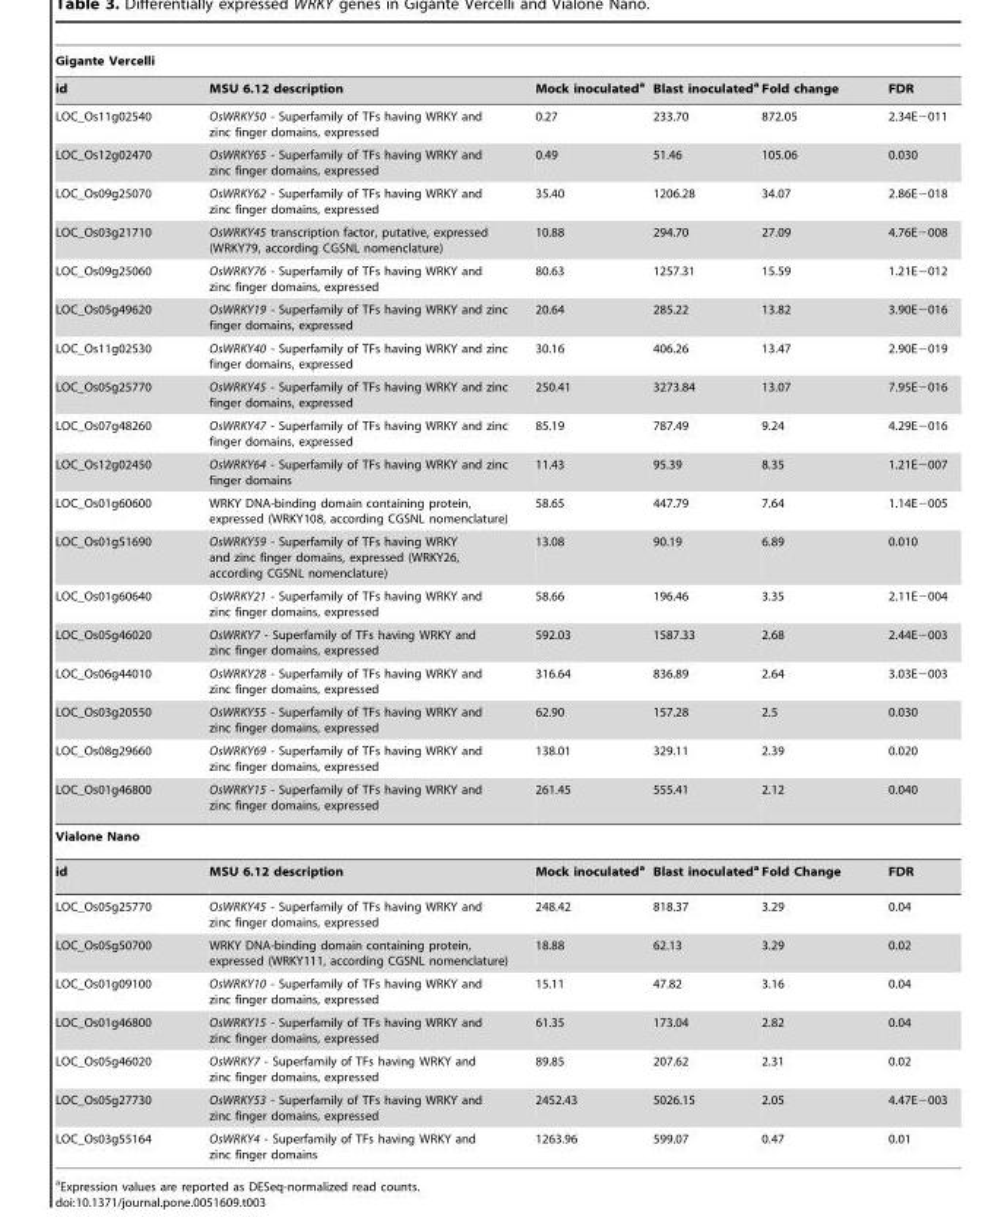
<table><thead><tr><td colspan="6">Gigante Vercelli</td></tr><tr><td>id</td><td>MSU 6.12 description</td><td>Mock inoculated<sup>a</sup></td><td>Blast inoculated<sup>a</sup></td><td>Fold change</td><td>FDR</td></tr></thead><tbody><tr><td>LOC_Os11g02540</td><td>OsWRKY50 - Superfamily of TFs having WRKY and zinc finger domains, expressed</td><td>0.27</td><td>233.70</td><td>872.05</td><td>2.34E−011</td></tr><tr><td>LOC_Os12g02470</td><td>OsWRKY65 - Superfamily of TFs having WRKY and zinc finger domains, expressed</td><td>0.49</td><td>51.46</td><td>105.06</td><td>0.030</td></tr><tr><td>LOC_Os09g25070</td><td>OsWRKY62 - Superfamily of TFs having WRKY and zinc finger domains, expressed</td><td>35.40</td><td>1206.28</td><td>34.07</td><td>2.86E−018</td></tr><tr><td>LOC_Os03g21710</td><td>OsWRKY45 transcription factor, putative, expressed (WRKY79, according CGSNL nomenclature)</td><td>10.88</td><td>294.70</td><td>27.09</td><td>4.76E−008</td></tr><tr><td>LOC_Os09g25060</td><td>OsWRKY76 - Superfamily of TFs having WRKY and zinc finger domains, expressed</td><td>80.63</td><td>1257.31</td><td>15.59</td><td>1.21E−012</td></tr><tr><td>LOC_Os05g49620</td><td>OsWRKY19 - Superfamily of TFs having WRKY and zinc finger domains, expressed</td><td>20.64</td><td>285.22</td><td>13.82</td><td>3.90E−016</td></tr><tr><td>LOC_Os11g02530</td><td>OsWRKY40 - Superfamily of TFs having WRKY and zinc finger domains, expressed</td><td>30.16</td><td>406.26</td><td>13.47</td><td>2.90E−019</td></tr><tr><td>LOC_Os05g25770</td><td>OsWRKY45 - Superfamily of TFs having WRKY and zinc finger domains, expressed</td><td>250.41</td><td>3273.84</td><td>13.07</td><td>7.95E−016</td></tr><tr><td>LOC_Os07g48260</td><td>OsWRKY47 - Superfamily of TFs having WRKY and zinc finger domains, expressed</td><td>85.19</td><td>787.49</td><td>9.24</td><td>4.29E−016</td></tr><tr><td>LOC_Os12g02450</td><td>OsWRKY64 - Superfamily of TFs having WRKY and zinc finger domains</td><td>11.43</td><td>95.39</td><td>8.35</td><td>1.21E−007</td></tr><tr><td>LOC_Os01g60600</td><td>WRKY DNA-binding domain containing protein, expressed (WRKY108, according CGSNL nomenclature)</td><td>58.65</td><td>447.79</td><td>7.64</td><td>1.14E−005</td></tr><tr><td>LOC_Os01g51690</td><td>OsWRKY59 - Superfamily of TFs having WRKY and zinc finger domains, expressed (WRKY26, according CGSNL nomenclature)</td><td>13.08</td><td>90.19</td><td>6.89</td><td>0.010</td></tr><tr><td>LOC_Os01g60640</td><td>OsWRKY21 - Superfamily of TFs having WRKY and zinc finger domains, expressed</td><td>58.66</td><td>196.46</td><td>3.35</td><td>2.11E−004</td></tr><tr><td>LOC_Os05g46020</td><td>OsWRKY7 - Superfamily of TFs having WRKY and zinc finger domains, expressed</td><td>592.03</td><td>1587.33</td><td>2.68</td><td>2.44E−003</td></tr><tr><td>LOC_Os06g44010</td><td>OsWRKY28 - Superfamily of TFs having WRKY and zinc finger domains, expressed</td><td>316.64</td><td>836.89</td><td>2.64</td><td>3.03E−003</td></tr><tr><td>LOC_Os03g20550</td><td>OsWRKY55 - Superfamily of TFs having WRKY and zinc finger domains, expressed</td><td>62.90</td><td>157.28</td><td>2.5</td><td>0.030</td></tr><tr><td>LOC_Os08g29660</td><td>OsWRKY69 - Superfamily of TFs having WRKY and zinc finger domains, expressed</td><td>138.01</td><td>329.11</td><td>2.39</td><td>0.020</td></tr><tr><td>LOC_Os01g46800</td><td>OsWRKY15 - Superfamily of TFs having WRKY and zinc finger domains, expressed</td><td>261.45</td><td>555.41</td><td>2.12</td><td>0.040</td></tr><tr><td colspan="6">Vialone Nano</td></tr><tr><td>id</td><td>MSU 6.12 description</td><td>Mock inoculateda</td><td>Blast inoculateda</td><td>Fold Change</td><td>FDR</td></tr><tr><td>LOC_Os05g25770</td><td>OsWRKY45 - Superfamily of TFs having WRKY and zinc finger domains, expressed</td><td>248.42</td><td>818.37</td><td>3.29</td><td>0.04</td></tr><tr><td>LOC_Os05g50700</td><td>WRKY DNA-binding domain containing protein, expressed (WRKY111, according CGSNL nomenclature)</td><td>18.88</td><td>62.13</td><td>3.29</td><td>0.02</td></tr><tr><td>LOC_Os01g09100</td><td>OsWRKY10 - Superfamily of TFs having WRKY and zinc finger domains, expressed</td><td>15.11</td><td>47.82</td><td>3.16</td><td>0.04</td></tr><tr><td>LOC_Os01g46800</td><td>OsWRKY15 - Superfamily of TFs having WRKY and zinc finger domains, expressed</td><td>61.35</td><td>173.04</td><td>2.82</td><td>0.04</td></tr><tr><td>LOC_Os05g46020</td><td>OsWRKY7 - Superfamily of TFs having WRKY and zinc finger domains, expressed</td><td>89.85</td><td>207.62</td><td>2.31</td><td>0.02</td></tr><tr><td>LOC_Os05g27730</td><td>OsWRKY53 - Superfamily of TFs having WRKY and zinc finger domains, expressed</td><td>2452.43</td><td>5026.15</td><td>2.05</td><td>4.47E−003</td></tr><tr><td>LOC_Os03g55164</td><td>OsWRKY4 - Superfamily of TFs having WRKY and zinc finger domains</td><td>1263.96</td><td>599.07</td><td>0.47</td><td>0.01</td></tr></tbody></table>